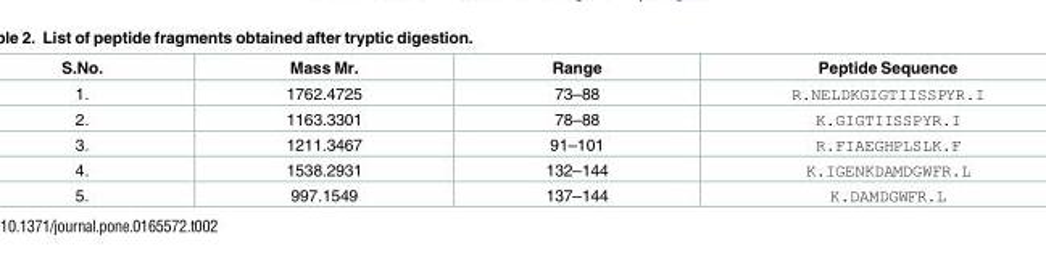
<table><thead><tr><td>S.No.</td><td>Mass Mr.</td><td>Range</td><td>Peptide Sequence</td></tr></thead><tbody><tr><td>1.</td><td>1762.4725</td><td>73–88</td><td>R.NELDKGIGTIISSPYR.I</td></tr><tr><td>2.</td><td>1163.3301</td><td>78–88</td><td>K.GIGTIISSPYR.I</td></tr><tr><td>3.</td><td>1211.3467</td><td>91–101</td><td>R.FIAEGHPLSLK.F</td></tr><tr><td>4.</td><td>1538.2931</td><td>132–144</td><td>K.IGENKDAMDGWFR.L</td></tr><tr><td>5.</td><td>997.1549</td><td>137–144</td><td>K.DAMDGWFR.L</td></tr></tbody></table>